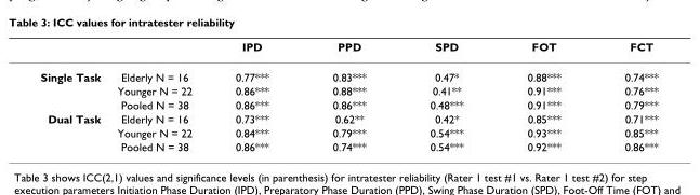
<table><thead><tr><td></td><td></td><td>IPD</td><td>PPD</td><td>SPD</td><td>FOT</td><td>FCT</td></tr></thead><tbody><tr><td rowspan="3">Single Task</td><td>Elderly N = 16</td><td>0.77***</td><td>0.83***</td><td>0.47*</td><td>0.88***</td><td>0.74***</td></tr><tr><td>Younger N = 22</td><td>0.86***</td><td>0.88***</td><td>0.41**</td><td>0.91***</td><td>0.76***</td></tr><tr><td>Pooled N = 38</td><td>0.86***</td><td>0.86***</td><td>0.48***</td><td>0.91***</td><td>0.79***</td></tr><tr><td rowspan="3">Dual Task</td><td>Elderly N = 16</td><td>0.73***</td><td>0.62**</td><td>0.42*</td><td>0.85***</td><td>0.71***</td></tr><tr><td>Younger N = 22</td><td>0.84***</td><td>0.79***</td><td>0.54***</td><td>0.93***</td><td>0.85***</td></tr><tr><td>Pooled N = 38</td><td>0.86***</td><td>0.74***</td><td>0.54***</td><td>0.92***</td><td>0.86***</td></tr></tbody></table>